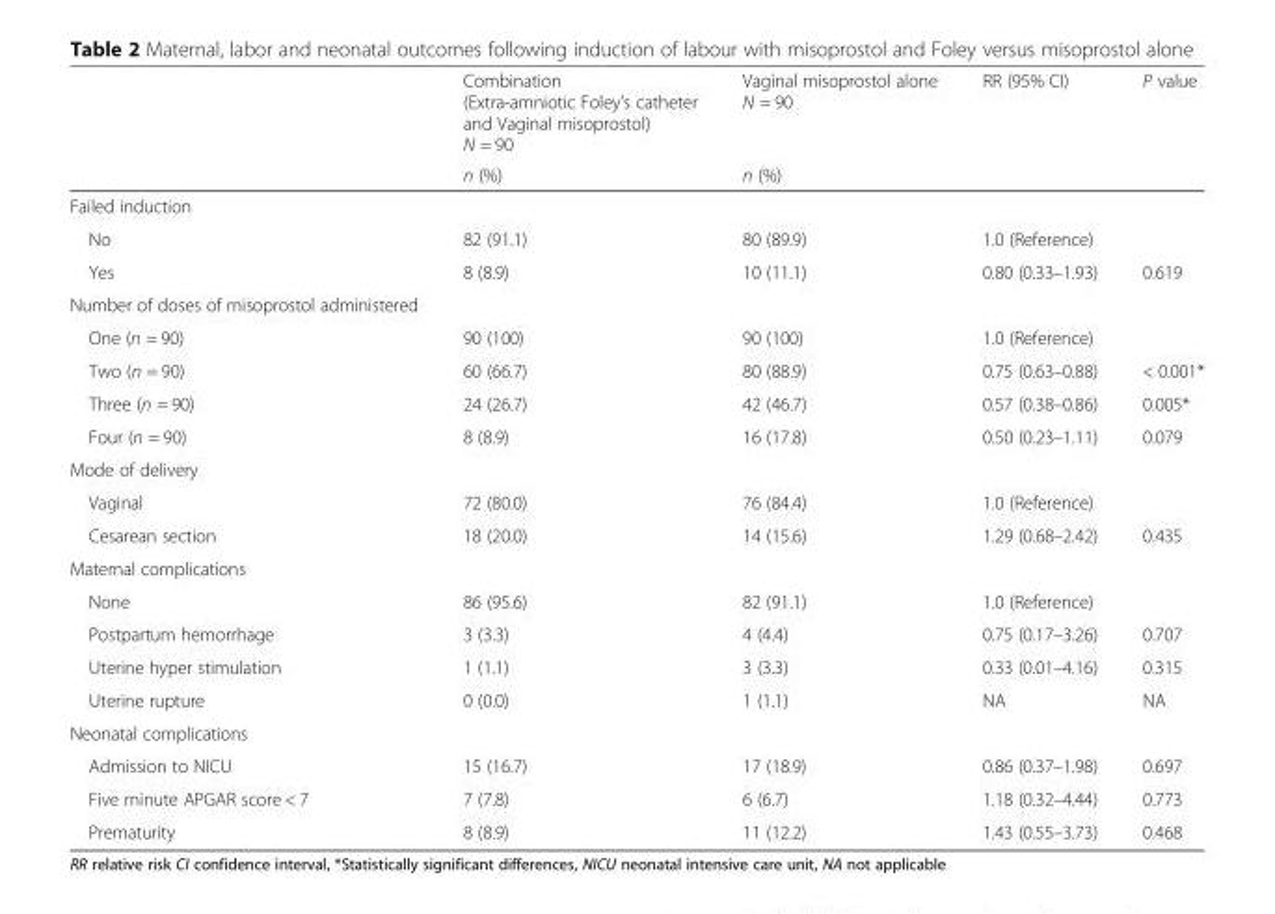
<table><thead><tr><td rowspan="2"></td><td rowspan="2">Combination (Extra-amniotic Foley’s catheter and Vaginal misoprostol) N = 90 n (%)</td><td rowspan="2">Vaginal misoprostol alone N = 90 n (%)</td><td rowspan="2">RR (95% CI)</td><td rowspan="2">P value</td></tr><tr></tr></thead><tbody><tr><td colspan="5">Failed induction</td></tr><tr><td>No</td><td>82 (91.1)</td><td>80 (89.9)</td><td>1.0 (Reference)</td><td></td></tr><tr><td>Yes</td><td>8 (8.9)</td><td>10 (11.1)</td><td>0.80 (0.33–1.93)</td><td>0.619</td></tr><tr><td colspan="5">Number of doses of misoprostol administered</td></tr><tr><td>One (n = 90)</td><td>90 (100)</td><td>90 (100)</td><td>1.0 (Reference)</td><td></td></tr><tr><td>Two (n = 90)</td><td>60 (66.7)</td><td>80 (88.9)</td><td>0.75 (0.63–0.88)</td><td>&lt; 0.001*</td></tr><tr><td>Three (n = 90)</td><td>24 (26.7)</td><td>42 (46.7)</td><td>0.57 (0.38–0.86)</td><td>0.005*</td></tr><tr><td>Four (n = 90)</td><td>8 (8.9)</td><td>16 (17.8)</td><td>0.50 (0.23–1.11)</td><td>0.079</td></tr><tr><td colspan="5">Mode of delivery</td></tr><tr><td>Vaginal</td><td>72 (80.0)</td><td>76 (84.4)</td><td>1.0 (Reference)</td><td></td></tr><tr><td>Cesarean section</td><td>18 (20.0)</td><td>14 (15.6)</td><td>1.29 (0.68–2.42)</td><td>0.435</td></tr><tr><td colspan="5">Maternal complications</td></tr><tr><td>None</td><td>86 (95.6)</td><td>82 (91.1)</td><td>1.0 (Reference)</td><td></td></tr><tr><td>Postpartum hemorrhage</td><td>3 (3.3)</td><td>4 (4.4)</td><td>0.75 (0.17–3.26)</td><td>0.707</td></tr><tr><td>Uterine hyper stimulation</td><td>1 (1.1)</td><td>3 (3.3)</td><td>0.33 (0.01–4.16)</td><td>0.315</td></tr><tr><td>Uterine rupture</td><td>0 (0.0)</td><td>1 (1.1)</td><td>NA</td><td>NA</td></tr><tr><td colspan="5">Neonatal complications</td></tr><tr><td>Admission to NICU</td><td>15 (16.7)</td><td>17 (18.9)</td><td>0.86 (0.37–1.98)</td><td>0.697</td></tr><tr><td>Five minute APGAR score &lt; 7</td><td>7 (7.8)</td><td>6 (6.7)</td><td>1.18 (0.32–4.44)</td><td>0.773</td></tr><tr><td>Prematurity</td><td>8 (8.9)</td><td>11 (12.2)</td><td>1.43 (0.55–3.73)</td><td>0.468</td></tr></tbody></table>